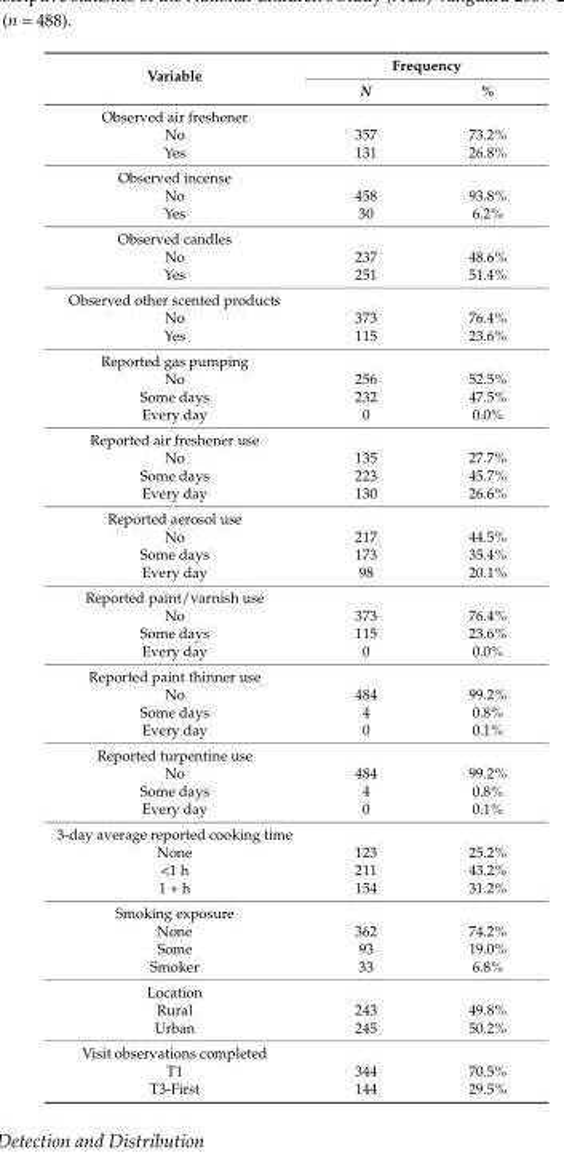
<table><thead><tr><td rowspan="2">Variable</td><td colspan="2">Frequency</td></tr><tr><td>N</td><td>%</td></tr></thead><tbody><tr><td colspan="3">Observed air freshener</td></tr><tr><td>No</td><td>357</td><td>73.2%</td></tr><tr><td>Yes</td><td>131</td><td>26.8%</td></tr><tr><td colspan="3">Observed incense</td></tr><tr><td>No</td><td>458</td><td>93.8%</td></tr><tr><td>Yes</td><td>30</td><td>6.2%</td></tr><tr><td colspan="3">Observed candles</td></tr><tr><td>No</td><td>237</td><td>48.6%</td></tr><tr><td>Yes</td><td>251</td><td>51.4%</td></tr><tr><td colspan="3">Observed other scented products</td></tr><tr><td>No</td><td>373</td><td>76.4%</td></tr><tr><td>Yes</td><td>115</td><td>23.6%</td></tr><tr><td colspan="3">Reported gas pumping</td></tr><tr><td>No</td><td>256</td><td>52.5%</td></tr><tr><td>Some days</td><td>232</td><td>47.5%</td></tr><tr><td>Every day</td><td>0</td><td>0.0%</td></tr><tr><td colspan="3">Reported air freshener use</td></tr><tr><td>No</td><td>135</td><td>27.7%</td></tr><tr><td>Some days</td><td>223</td><td>45.7%</td></tr><tr><td>Every day</td><td>130</td><td>26.6%</td></tr><tr><td colspan="3">Reported aerosol use</td></tr><tr><td>No</td><td>217</td><td>44.5%</td></tr><tr><td>Some days</td><td>173</td><td>35.4%</td></tr><tr><td>Every day</td><td>98</td><td>20.1%</td></tr><tr><td colspan="3">Reported paint/varnish use</td></tr><tr><td>No</td><td>373</td><td>76.4%</td></tr><tr><td>Some days</td><td>115</td><td>23.6%</td></tr><tr><td>Every day</td><td>0</td><td>0.0%</td></tr><tr><td colspan="3">Reported paint thinner use</td></tr><tr><td>No</td><td>484</td><td>99.2%</td></tr><tr><td>Some days</td><td>4</td><td>0.8%</td></tr><tr><td>Every day</td><td>0</td><td>0.1%</td></tr><tr><td colspan="3">Reported turpentine use</td></tr><tr><td>No</td><td>484</td><td>99.2%</td></tr><tr><td>Some days</td><td>4</td><td>0.8%</td></tr><tr><td>Every day</td><td>0</td><td>0.1%</td></tr><tr><td colspan="3">3-day average reported cooking time</td></tr><tr><td>None</td><td>123</td><td>25.2%</td></tr><tr><td>&lt;1 h</td><td>211</td><td>43.2%</td></tr><tr><td>1 + h</td><td>154</td><td>31.2%</td></tr><tr><td colspan="3">Smoking exposure</td></tr><tr><td>None</td><td>362</td><td>74.2%</td></tr><tr><td>Some</td><td>93</td><td>19.0%</td></tr><tr><td>Smoker</td><td>33</td><td>6.8%</td></tr><tr><td colspan="3">Location</td></tr><tr><td>Rural</td><td>243</td><td>49.8%</td></tr><tr><td>Urban</td><td>245</td><td>50.2%</td></tr><tr><td colspan="3">Visit observations completed</td></tr><tr><td>T1</td><td>344</td><td>70.5%</td></tr><tr><td>T3-First</td><td>144</td><td>29.5%</td></tr></tbody></table>